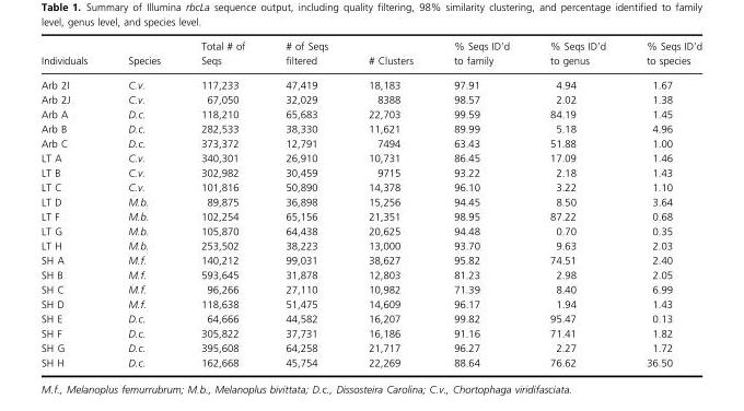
<table><thead><tr><td>Individuals</td><td>Species</td><td>Total # of Seqs</td><td># of Seqs filtered</td><td># Clusters</td><td>% Seqs ID’d to family</td><td>% Seqs ID’d to genus</td><td>% Seqs ID’d to species</td></tr></thead><tbody><tr><td>Arb 2I</td><td>C.v.</td><td>117,233</td><td>47,419</td><td>18,183</td><td>97.91</td><td>4.94</td><td>1.67</td></tr><tr><td>Arb 2J</td><td>C.v.</td><td>67,050</td><td>32,029</td><td>8388</td><td>98.57</td><td>2.02</td><td>1.38</td></tr><tr><td>Arb A</td><td>D.c.</td><td>118,210</td><td>65,683</td><td>22,703</td><td>99.59</td><td>84.19</td><td>1.45</td></tr><tr><td>Arb B</td><td>D.c.</td><td>282,533</td><td>38,330</td><td>11,621</td><td>89.99</td><td>5.18</td><td>4.96</td></tr><tr><td>Arb C</td><td>D.c.</td><td>373,372</td><td>12,791</td><td>7494</td><td>63.43</td><td>51.88</td><td>1.00</td></tr><tr><td>LT A</td><td>C.v.</td><td>340,301</td><td>26,910</td><td>10,731</td><td>86.45</td><td>17.09</td><td>1.46</td></tr><tr><td>LT B</td><td>C.v.</td><td>302,982</td><td>30,459</td><td>9715</td><td>93.22</td><td>2.18</td><td>1.43</td></tr><tr><td>LT C</td><td>C.v.</td><td>101,816</td><td>50,890</td><td>14,378</td><td>96.10</td><td>3.22</td><td>1.10</td></tr><tr><td>LT D</td><td>M.b.</td><td>89,875</td><td>36,898</td><td>15,256</td><td>94.45</td><td>8.50</td><td>3.64</td></tr><tr><td>LT F</td><td>M.b.</td><td>102,254</td><td>65,156</td><td>21,351</td><td>98.95</td><td>87.22</td><td>0.68</td></tr><tr><td>LT G</td><td>M.b.</td><td>105,870</td><td>64,438</td><td>20,625</td><td>94.48</td><td>0.70</td><td>0.35</td></tr><tr><td>LT H</td><td>M.b.</td><td>253,502</td><td>38,223</td><td>13,000</td><td>93.70</td><td>9.63</td><td>2.03</td></tr><tr><td>SH A</td><td>M.f.</td><td>140,212</td><td>99,031</td><td>38,627</td><td>95.82</td><td>74.51</td><td>2.40</td></tr><tr><td>SH B</td><td>M.f.</td><td>593,645</td><td>31,878</td><td>12,803</td><td>81.23</td><td>2.98</td><td>2.05</td></tr><tr><td>SH C</td><td>M.f.</td><td>96,266</td><td>27,110</td><td>10,982</td><td>71.39</td><td>8.40</td><td>6.99</td></tr><tr><td>SH D</td><td>M.f.</td><td>118,638</td><td>51,475</td><td>14,609</td><td>96.17</td><td>1.94</td><td>1.43</td></tr><tr><td>SH E</td><td>D.c.</td><td>64,666</td><td>44,582</td><td>16,207</td><td>99.82</td><td>95.47</td><td>0.13</td></tr><tr><td>SH F</td><td>D.c.</td><td>305,822</td><td>37,731</td><td>16,186</td><td>91.16</td><td>71.41</td><td>1.82</td></tr><tr><td>SH G</td><td>D.c.</td><td>395,608</td><td>64,258</td><td>21,717</td><td>96.27</td><td>2.27</td><td>1.72</td></tr><tr><td>SH H</td><td>D.c.</td><td>162,668</td><td>45,754</td><td>22,269</td><td>88.64</td><td>76.62</td><td>36.50</td></tr></tbody></table>